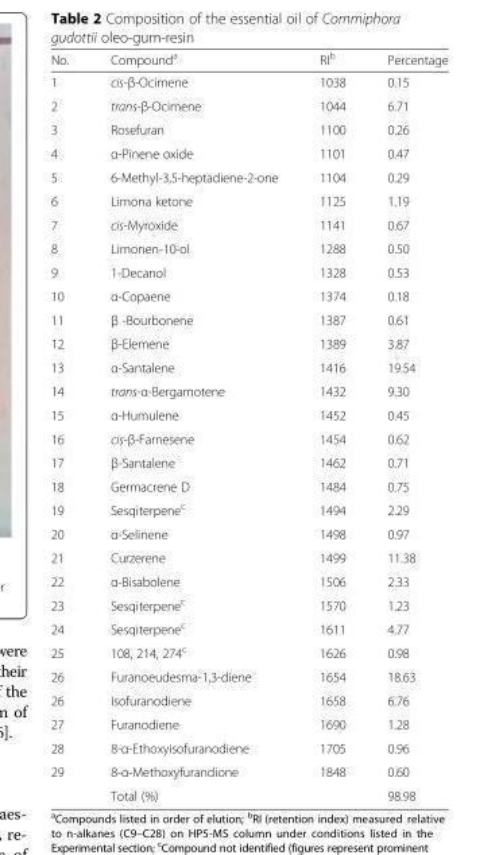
<table><thead><tr><td>No.</td><td>Compound<sup>a</sup></td><td>RI<sup>b</sup></td><td>Percentage</td></tr></thead><tbody><tr><td>1</td><td>cis-β-Ocimene</td><td>1038</td><td>0.15</td></tr><tr><td>2</td><td>trans-β-Ocimene</td><td>1044</td><td>6.71</td></tr><tr><td>3</td><td>Rosefuran</td><td>1100</td><td>0.26</td></tr><tr><td>4</td><td>α-Pinene oxide</td><td>1101</td><td>0.47</td></tr><tr><td>5</td><td>6-Methyl-3,5-heptadiene-2-one</td><td>1104</td><td>0.29</td></tr><tr><td>6</td><td>Limona ketone</td><td>1125</td><td>1.19</td></tr><tr><td>7</td><td>cis-Myroxide</td><td>1141</td><td>0.67</td></tr><tr><td>8</td><td>Limonen-10-ol</td><td>1288</td><td>0.50</td></tr><tr><td>9</td><td>1-Decanol</td><td>1328</td><td>0.53</td></tr><tr><td>10</td><td>α-Copaene</td><td>1374</td><td>0.18</td></tr><tr><td>11</td><td>β -Bourbonene</td><td>1387</td><td>0.61</td></tr><tr><td>12</td><td>β-Elemene</td><td>1389</td><td>3.87</td></tr><tr><td>13</td><td>α-Santalene</td><td>1416</td><td>19.54</td></tr><tr><td>14</td><td>trans-α-Bergamotene</td><td>1432</td><td>9.30</td></tr><tr><td>15</td><td>α-Humulene</td><td>1452</td><td>0.45</td></tr><tr><td>16</td><td>cis-β-Farnesene</td><td>1454</td><td>0.62</td></tr><tr><td>17</td><td>β-Santalene</td><td>1462</td><td>0.71</td></tr><tr><td>18</td><td>Germacrene D</td><td>1484</td><td>0.75</td></tr><tr><td>19</td><td>Sesqiterpene<sup>c</sup></td><td>1494</td><td>2.29</td></tr><tr><td>20</td><td>α-Selinene</td><td>1498</td><td>0.97</td></tr><tr><td>21</td><td>Curzerene</td><td>1499</td><td>11.38</td></tr><tr><td>22</td><td>α-Bisabolene</td><td>1506</td><td>2.33</td></tr><tr><td>23</td><td>Sesqiterpene<sup>c</sup></td><td>1570</td><td>1.23</td></tr><tr><td>24</td><td>Sesqiterpene<sup>c</sup></td><td>1611</td><td>4.77</td></tr><tr><td>25</td><td>108, 214, 274<sup>c</sup></td><td>1626</td><td>0.98</td></tr><tr><td>26</td><td>Furanoeudesma-1,3-diene</td><td>1654</td><td>18.63</td></tr><tr><td>26</td><td>Isofuranodiene</td><td>1658</td><td>6.76</td></tr><tr><td>27</td><td>Furanodiene</td><td>1690</td><td>1.28</td></tr><tr><td>28</td><td>8-α-Ethoxyisofuranodiene</td><td>1705</td><td>0.96</td></tr><tr><td rowspan="2">29</td><td>8-α-Methoxyfurandione</td><td>1848</td><td>0.60</td></tr><tr><td>Total (%)</td><td></td><td>98.98</td></tr></tbody></table>